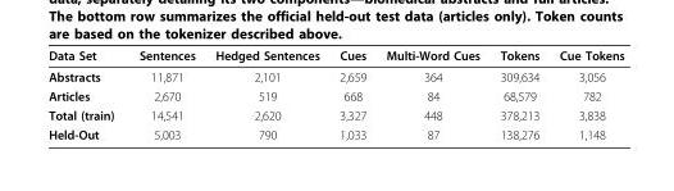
<table><thead><tr><td>Data Set</td><td>Sentences</td><td>Hedged Sentences</td><td>Cues</td><td>Multi-Word Cues</td><td>Tokens</td><td>Cue Tokens</td></tr></thead><tbody><tr><td>Abstracts</td><td>11,871</td><td>2,101</td><td>2,659</td><td>364</td><td>309,634</td><td>3,056</td></tr><tr><td>Articles</td><td>2,670</td><td>519</td><td>668</td><td>84</td><td>68,579</td><td>782</td></tr><tr><td>Total (train)</td><td>14,541</td><td>2,620</td><td>3,327</td><td>448</td><td>378,213</td><td>3,838</td></tr><tr><td>Held-Out</td><td>5,003</td><td>790</td><td>1,033</td><td>87</td><td>138,276</td><td>1,148</td></tr></tbody></table>